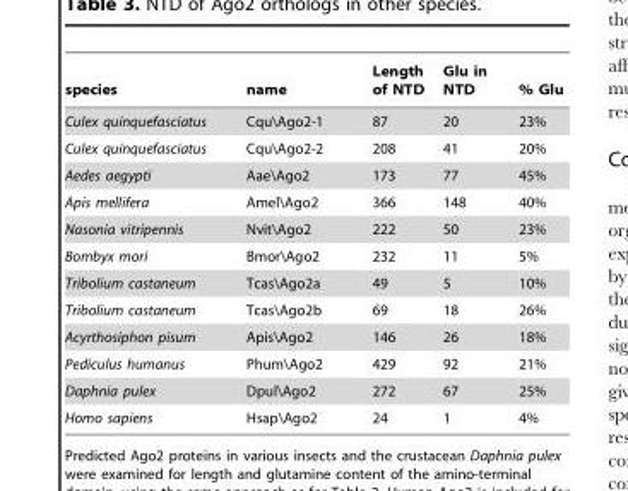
<table><thead><tr><td>species</td><td>name</td><td>Length of NTD</td><td>Glu in NTD</td><td>% Glu</td></tr></thead><tbody><tr><td>Culex quinquefasciatus</td><td>Cqu\Ago2-1</td><td>87</td><td>20</td><td>23%</td></tr><tr><td>Culex quinquefasciatus</td><td>Cqu\Ago2-2</td><td>208</td><td>41</td><td>20%</td></tr><tr><td>Aedes aegypti</td><td>Aae\Ago2</td><td>173</td><td>77</td><td>45%</td></tr><tr><td>Apis mellifera</td><td>Amel\Ago2</td><td>366</td><td>148</td><td>40%</td></tr><tr><td>Nasonia vitripennis</td><td>Nvit\Ago2</td><td>222</td><td>50</td><td>23%</td></tr><tr><td>Bombyx mori</td><td>Bmor\Ago2</td><td>232</td><td>11</td><td>5%</td></tr><tr><td>Tribolium castaneum</td><td>Tcas\Ago2a</td><td>49</td><td>5</td><td>10%</td></tr><tr><td>Tribolium castaneum</td><td>Tcas\Ago2b</td><td>69</td><td>18</td><td>26%</td></tr><tr><td>Acyrthosiphon pisum</td><td>Apis\Ago2</td><td>146</td><td>26</td><td>18%</td></tr><tr><td>Pediculus humanus</td><td>Phum\Ago2</td><td>429</td><td>92</td><td>21%</td></tr><tr><td>Daphnia pulex</td><td>Dpul\Ago2</td><td>272</td><td>67</td><td>25%</td></tr><tr><td>Homo sapiens</td><td>Hsap\Ago2</td><td>24</td><td>1</td><td>4%</td></tr></tbody></table>